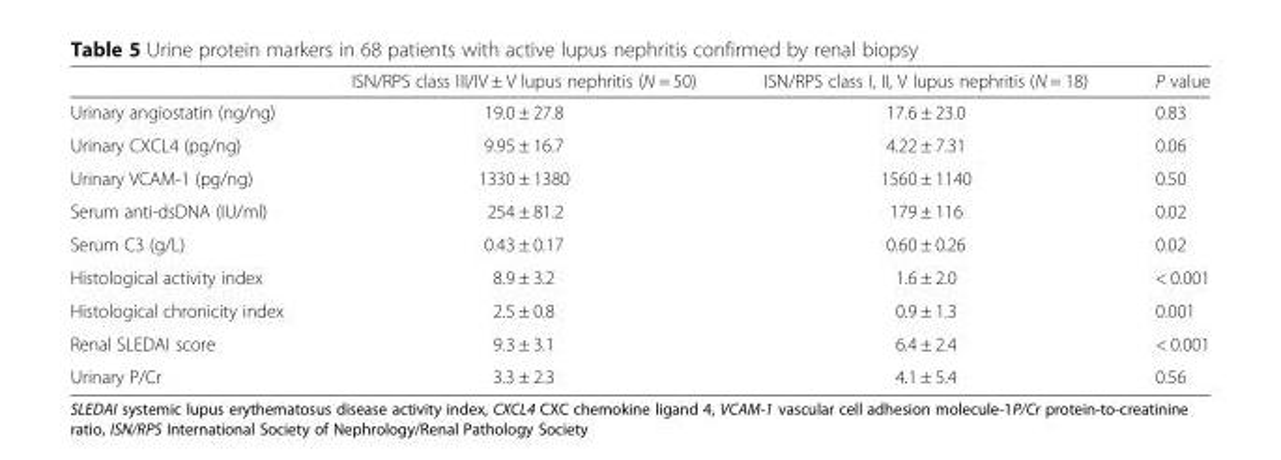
<table><thead><tr><td></td><td>ISN/RPS class III/IV ± V lupus nephritis (N = 50)</td><td>ISN/RPS class I, II, V lupus nephritis (N = 18)</td><td>P value</td></tr></thead><tbody><tr><td>Urinary angiostatin (ng/ng)</td><td>19.0 ± 27.8</td><td>17.6 ± 23.0</td><td>0.83</td></tr><tr><td>Urinary CXCL4 (pg/ng)</td><td>9.95 ± 16.7</td><td>4.22 ± 7.31</td><td>0.06</td></tr><tr><td>Urinary VCAM-1 (pg/ng)</td><td>1330 ± 1380</td><td>1560 ± 1140</td><td>0.50</td></tr><tr><td>Serum anti-dsDNA (IU/ml)</td><td>254 ± 81.2</td><td>179 ± 116</td><td>0.02</td></tr><tr><td>Serum C3 (g/L)</td><td>0.43 ± 0.17</td><td>0.60 ± 0.26</td><td>0.02</td></tr><tr><td>Histological activity index</td><td>8.9 ± 3.2</td><td>1.6 ± 2.0</td><td>&lt; 0.001</td></tr><tr><td>Histological chronicity index</td><td>2.5 ± 0.8</td><td>0.9 ± 1.3</td><td>0.001</td></tr><tr><td>Renal SLEDAI score</td><td>9.3 ± 3.1</td><td>6.4 ± 2.4</td><td>&lt; 0.001</td></tr><tr><td>Urinary P/Cr</td><td>3.3 ± 2.3</td><td>4.1 ± 5.4</td><td>0.56</td></tr></tbody></table>